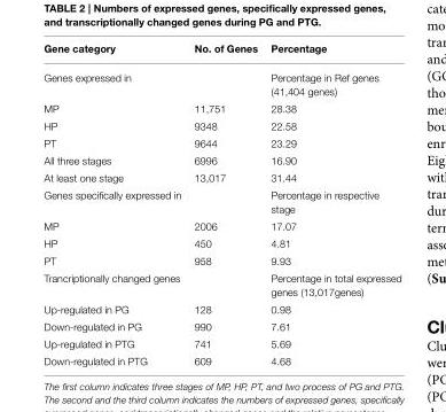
<table><thead><tr><td>Gene category</td><td>No. of Genes</td><td>Percentage</td></tr></thead><tbody><tr><td>Genes expressed in</td><td></td><td>Percentage in Ref genes (41,404 genes)</td></tr><tr><td>MP</td><td>11,751</td><td>28.38</td></tr><tr><td>HP</td><td>9348</td><td>22.58</td></tr><tr><td>PT</td><td>9644</td><td>23.29</td></tr><tr><td>All three stages</td><td>6996</td><td>16.90</td></tr><tr><td>At least one stage</td><td>13,017</td><td>31.44</td></tr><tr><td>Genes specifically expressed in</td><td></td><td>Percentage in respective stage</td></tr><tr><td>MP</td><td>2006</td><td>17.07</td></tr><tr><td>HP</td><td>450</td><td>4.81</td></tr><tr><td>PT</td><td>958</td><td>9.93</td></tr><tr><td>Trancriptionally changed genes</td><td></td><td>Percentage in total expressed genes (13,017genes)</td></tr><tr><td>Up-regulated in PG</td><td>128</td><td>0.98</td></tr><tr><td>Down-regulated in PG</td><td>990</td><td>7.61</td></tr><tr><td>Up-regulated in PTG</td><td>741</td><td>5.69</td></tr><tr><td>Down-regulated in PTG</td><td>609</td><td>4.68</td></tr></tbody></table>